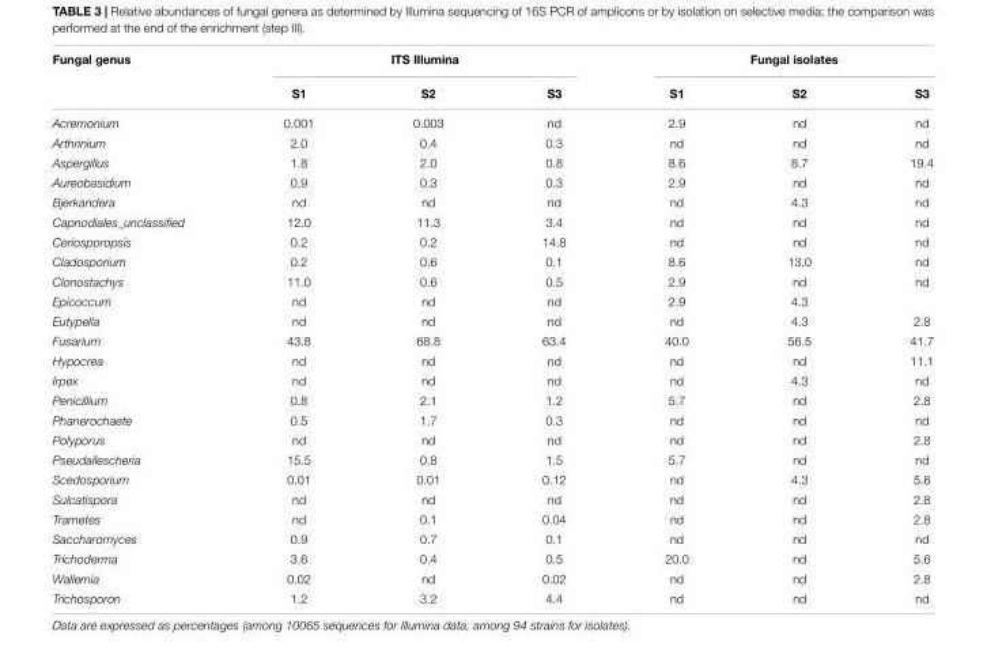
<table><thead><tr><td rowspan="2">Fungal genus</td><td colspan="3">ITS Illumina</td><td colspan="3">Fungal isolates</td></tr><tr><td>S1</td><td>S2</td><td>S3</td><td>S1</td><td>S2</td><td>S3</td></tr></thead><tbody><tr><td>Acremonium</td><td>0.001</td><td>0.003</td><td>nd</td><td>2.9</td><td>nd</td><td>nd</td></tr><tr><td>Arthrinium</td><td>2.0</td><td>0.4</td><td>0.3</td><td>nd</td><td>nd</td><td>nd</td></tr><tr><td>Aspergillus</td><td>1.8</td><td>2.0</td><td>0.8</td><td>8.6</td><td>8.7</td><td>19.4</td></tr><tr><td>Aureobasidium</td><td>0.9</td><td>0.3</td><td>0.3</td><td>2.9</td><td>nd</td><td>nd</td></tr><tr><td>Bjerkandera</td><td>nd</td><td>nd</td><td>nd</td><td>nd</td><td>4.3</td><td>nd</td></tr><tr><td>Capnodiales_unclassified</td><td>12.0</td><td>11.3</td><td>3.4</td><td>nd</td><td>nd</td><td>nd</td></tr><tr><td>Ceriosporopsis</td><td>0.2</td><td>0.2</td><td>14.8</td><td>nd</td><td>nd</td><td>nd</td></tr><tr><td>Cladosporium</td><td>0.2</td><td>0.6</td><td>0.1</td><td>8.6</td><td>13.0</td><td>nd</td></tr><tr><td>Clonostachys</td><td>11.0</td><td>0.6</td><td>0.5</td><td>2.9</td><td>nd</td><td>nd</td></tr><tr><td>Epicoccum</td><td>nd</td><td>nd</td><td>nd</td><td>2.9</td><td>4.3</td><td></td></tr><tr><td>Eutypella</td><td>nd</td><td>nd</td><td>nd</td><td>nd</td><td>4.3</td><td>2.8</td></tr><tr><td>Fusarium</td><td>43.8</td><td>68.8</td><td>63.4</td><td>40.0</td><td>56.5</td><td>41.7</td></tr><tr><td>Hypocrea</td><td>nd</td><td>nd</td><td>nd</td><td>nd</td><td>nd</td><td>11.1</td></tr><tr><td>Irpex</td><td>nd</td><td>nd</td><td>nd</td><td>nd</td><td>4.3</td><td>nd</td></tr><tr><td>Penicillium</td><td>0.8</td><td>2.1</td><td>1.2</td><td>5.7</td><td>nd</td><td>2.8</td></tr><tr><td>Phanerochaete</td><td>0.5</td><td>1.7</td><td>0.3</td><td>nd</td><td>nd</td><td>nd</td></tr><tr><td>Polyporus</td><td>nd</td><td>nd</td><td>nd</td><td>nd</td><td>nd</td><td>2.8</td></tr><tr><td>Pseudallescheria</td><td>15.5</td><td>0.8</td><td>1.5</td><td>5.7</td><td>nd</td><td>nd</td></tr><tr><td>Scedosporium</td><td>0.01</td><td>0.01</td><td>0.12</td><td>nd</td><td>4.3</td><td>5.6</td></tr><tr><td>Sulcatispora</td><td>nd</td><td>nd</td><td>nd</td><td>nd</td><td>nd</td><td>2.8</td></tr><tr><td>Trametes</td><td>nd</td><td>0.1</td><td>0.04</td><td>nd</td><td>nd</td><td>2.8</td></tr><tr><td>Saccharomyces</td><td>0.9</td><td>0.7</td><td>0.1</td><td>nd</td><td>nd</td><td>nd</td></tr><tr><td>Trichoderma</td><td>3.6</td><td>0.4</td><td>0.5</td><td>20.0</td><td>nd</td><td>5.6</td></tr><tr><td>Wallemia</td><td>0.02</td><td>nd</td><td>0.02</td><td>nd</td><td>nd</td><td>2.8</td></tr><tr><td>Trichosporon</td><td>1.2</td><td>3.2</td><td>4.4</td><td>nd</td><td>nd</td><td>nd</td></tr></tbody></table>